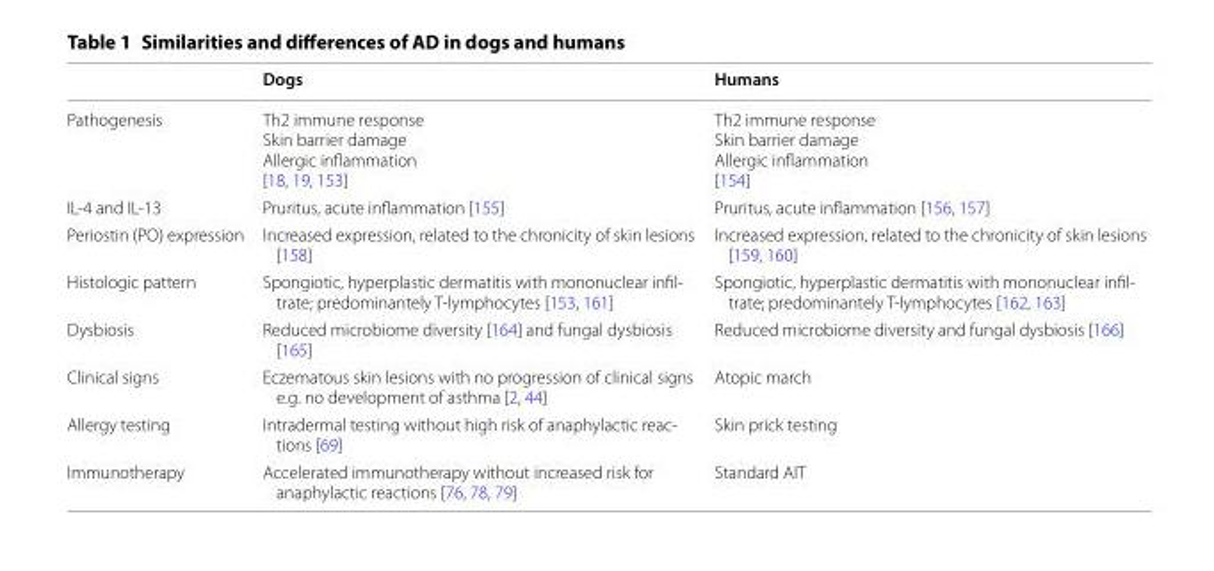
<table><thead><tr><td></td><td>Dogs</td><td>Humans</td></tr></thead><tbody><tr><td>Pathogenesis</td><td>Th2 immune response Skin barrier damage Allergic inflammation [18, 19, 153]</td><td>Th2 immune response Skin barrier damage Allergic inflammation [154]</td></tr><tr><td>IL-4 and IL-13</td><td>Pruritus, acute inflammation [155]</td><td>Pruritus, acute inflammation [156, 157]</td></tr><tr><td>Periostin (PO) expression</td><td>Increased expression, related to the chronicity of skin lesions [158]</td><td>Increased expression, related to the chronicity of skin lesions [159, 160]</td></tr><tr><td>Histologic pattern</td><td>Spongiotic, hyperplastic dermatitis with mononuclear infil- trate; predominantely T-lymphocytes [153, 161]</td><td>Spongiotic, hyperplastic dermatitis with mononuclear infil- trate; predominantely T-lymphocytes [162, 163]</td></tr><tr><td>Dysbiosis</td><td>Reduced microbiome diversity [164] and fungal dysbiosis [165]</td><td>Reduced microbiome diversity and fungal dysbiosis [166]</td></tr><tr><td>Clinical signs</td><td>Eczematous skin lesions with no progression of clinical signs e.g. no development of asthma [2, 44]</td><td>Atopic march</td></tr><tr><td>Allergy testing</td><td>Intradermal testing without high risk of anaphylactic reac- tions [69]</td><td>Skin prick testing</td></tr><tr><td>Immunotherapy</td><td>Accelerated immunotherapy without increased risk for anaphylactic reactions [76, 78, 79]</td><td>Standard AIT</td></tr></tbody></table>